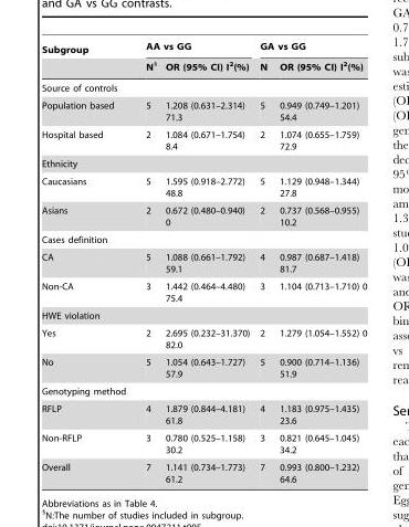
<table><thead><tr><td rowspan="2">Subgroup</td><td colspan="2">AA vs GG</td><td colspan="2">GA vs GG</td></tr><tr><td>N§</td><td>OR (95% CI) I<sup>2</sup>(%)</td><td>N</td><td>OR (95% CI) I<sup>2</sup>(%)</td></tr></thead><tbody><tr><td colspan="5">Source of controls</td></tr><tr><td>Population based</td><td>5</td><td>1.208 (0.631–2.314) 71.3</td><td>5</td><td>0.949 (0.749–1.201) 54.4</td></tr><tr><td>Hospital based</td><td>2</td><td>1.084 (0.671–1.754) 8.4</td><td>2</td><td>1.074 (0.655–1.759) 72.9</td></tr><tr><td colspan="5">Ethnicity</td></tr><tr><td>Caucasians</td><td>5</td><td>1.595 (0.918–2.772) 48.8</td><td>5</td><td>1.129 (0.948–1.344) 27.8</td></tr><tr><td>Asians</td><td>2</td><td>0.672 (0.480–0.940) 0</td><td>2</td><td>0.737 (0.568–0.955) 10.2</td></tr><tr><td colspan="5">Cases definition</td></tr><tr><td>CA</td><td>5</td><td>1.088 (0.661–1.792) 59.1</td><td>4</td><td>0.987 (0.687–1.418) 81.7</td></tr><tr><td>Non-CA</td><td>3</td><td>1.442 (0.464–4.480) 75.4</td><td>3</td><td>1.104 (0.713–1.710) 0</td></tr><tr><td colspan="5">HWE violation</td></tr><tr><td>Yes</td><td>2</td><td>2.695 (0.232–31.370) 82.0</td><td>2</td><td>1.279 (1.054–1.552) 0</td></tr><tr><td>No</td><td>5</td><td>1.054 (0.643–1.727) 57.9</td><td>5</td><td>0.900 (0.714–1.136) 51.9</td></tr><tr><td colspan="5">Genotyping method</td></tr><tr><td>RFLP</td><td>4</td><td>1.879 (0.844–4.181) 61.8</td><td>4</td><td>1.183 (0.975–1.435) 23.6</td></tr><tr><td>Non-RFLP</td><td>3</td><td>0.780 (0.525–1.158) 30.2</td><td>3</td><td>0.821 (0.645–1.045) 34.2</td></tr><tr><td>Overall</td><td>7</td><td>1.141 (0.734–1.773) 61.2</td><td>7</td><td>0.993 (0.800–1.232) 64.6</td></tr></tbody></table>